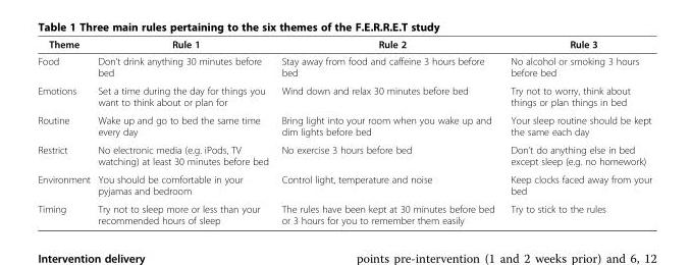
<table><thead><tr><td>Theme</td><td>Rule 1</td><td>Rule 2</td><td>Rule 3</td></tr></thead><tbody><tr><td>Food</td><td>Don’t drink anything 30 minutes before bed</td><td>Stay away from food and caffeine 3 hours before bed</td><td>No alcohol or smoking 3 hours before bed</td></tr><tr><td>Emotions</td><td>Set a time during the day for things you want to think about or plan for</td><td>Wind down and relax 30 minutes before bed</td><td>Try not to worry, think about things or plan things in bed</td></tr><tr><td>Routine</td><td>Wake up and go to bed the same time every day</td><td>Bring light into your room when you wake up and dim lights before bed</td><td>Your sleep routine should be kept the same each day</td></tr><tr><td>Restrict</td><td>No electronic media (e.g. iPods, TV watching) at least 30 minutes before bed</td><td>No exercise 3 hours before bed</td><td>Don’t do anything else in bed except sleep (e.g. no homework)</td></tr><tr><td>Environment</td><td>You should be comfortable in your pyjamas and bedroom</td><td>Control light, temperature and noise</td><td>Keep clocks faced away from your bed</td></tr><tr><td>Timing</td><td>Try not to sleep more or less than your recommended hours of sleep</td><td>The rules have been kept at 30 minutes before bed or 3 hours for you to remember them easily</td><td>Try to stick to the rules</td></tr></tbody></table>